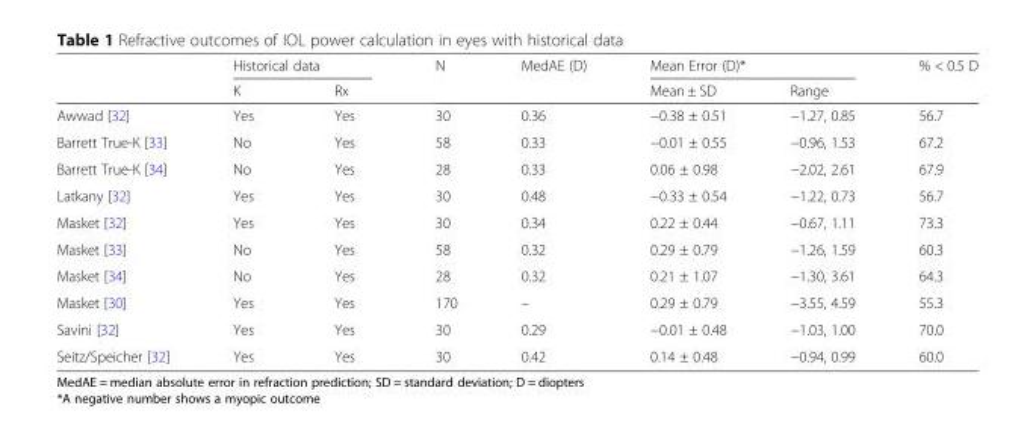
<table><thead><tr><td rowspan="2"></td><td colspan="2">Historical data</td><td rowspan="2">N</td><td rowspan="2">MedAE (D)</td><td colspan="2">Mean Error (D)*</td><td rowspan="2">% &lt; 0.5 D</td></tr><tr><td>K</td><td>Rx</td><td>Mean ± SD</td><td>Range</td></tr></thead><tbody><tr><td>Awwad [32]</td><td>Yes</td><td>Yes</td><td>30</td><td>0.36</td><td>−0.38 ± 0.51</td><td>−1.27, 0.85</td><td>56.7</td></tr><tr><td>Barrett True-K [33]</td><td>No</td><td>Yes</td><td>58</td><td>0.33</td><td>−0.01 ± 0.55</td><td>−0.96, 1.53</td><td>67.2</td></tr><tr><td>Barrett True-K [34]</td><td>No</td><td>Yes</td><td>28</td><td>0.33</td><td>0.06 ± 0.98</td><td>−2.02, 2.61</td><td>67.9</td></tr><tr><td>Latkany [32]</td><td>Yes</td><td>Yes</td><td>30</td><td>0.48</td><td>−0.33 ± 0.54</td><td>−1.22, 0.73</td><td>56.7</td></tr><tr><td>Masket [32]</td><td>Yes</td><td>Yes</td><td>30</td><td>0.34</td><td>0.22 ± 0.44</td><td>−0.67, 1.11</td><td>73.3</td></tr><tr><td>Masket [33]</td><td>No</td><td>Yes</td><td>58</td><td>0.32</td><td>0.29 ± 0.79</td><td>−1.26, 1.59</td><td>60.3</td></tr><tr><td>Masket [34]</td><td>No</td><td>Yes</td><td>28</td><td>0.32</td><td>0.21 ± 1.07</td><td>−1.30, 3.61</td><td>64.3</td></tr><tr><td>Masket [30]</td><td>Yes</td><td>Yes</td><td>170</td><td>–</td><td>0.29 ± 0.79</td><td>−3.55, 4.59</td><td>55.3</td></tr><tr><td>Savini [32]</td><td>Yes</td><td>Yes</td><td>30</td><td>0.29</td><td>−0.01 ± 0.48</td><td>−1.03, 1.00</td><td>70.0</td></tr><tr><td>Seitz/Speicher [32]</td><td>Yes</td><td>Yes</td><td>30</td><td>0.42</td><td>0.14 ± 0.48</td><td>−0.94, 0.99</td><td>60.0</td></tr></tbody></table>